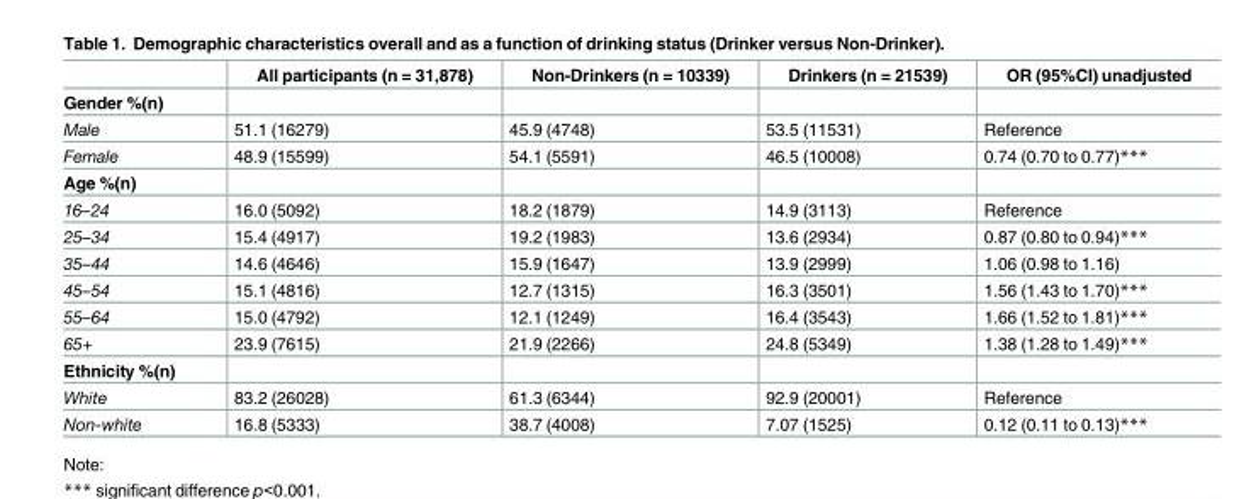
<table><thead><tr><td></td><td>All participants (n = 31,878)</td><td>Non-Drinkers (n = 10339)</td><td>Drinkers (n = 21539)</td><td>OR (95%CI) unadjusted</td></tr></thead><tbody><tr><td colspan="5">Gender %(n)</td></tr><tr><td>Male</td><td>51.1 (16279)</td><td>45.9 (4748)</td><td>53.5 (11531)</td><td>Reference</td></tr><tr><td>Female</td><td>48.9 (15599)</td><td>54.1 (5591)</td><td>46.5 (10008)</td><td>0.74 (0.70 to 0.77)***</td></tr><tr><td colspan="5">Age %(n)</td></tr><tr><td>16–24</td><td>16.0 (5092)</td><td>18.2 (1879)</td><td>14.9 (3113)</td><td>Reference</td></tr><tr><td>25–34</td><td>15.4 (4917)</td><td>19.2 (1983)</td><td>13.6 (2934)</td><td>0.87 (0.80 to 0.94)***</td></tr><tr><td>35–44</td><td>14.6 (4646)</td><td>15.9 (1647)</td><td>13.9 (2999)</td><td>1.06 (0.98 to 1.16)</td></tr><tr><td>45–54</td><td>15.1 (4816)</td><td>12.7 (1315)</td><td>16.3 (3501)</td><td>1.56 (1.43 to 1.70)***</td></tr><tr><td>55–64</td><td>15.0 (4792)</td><td>12.1 (1249)</td><td>16.4 (3543)</td><td>1.66 (1.52 to 1.81)***</td></tr><tr><td>65+</td><td>23.9 (7615)</td><td>21.9 (2266)</td><td>24.8 (5349)</td><td>1.38 (1.28 to 1.49)***</td></tr><tr><td colspan="5">Ethnicity %(n)</td></tr><tr><td>White</td><td>83.2 (26028)</td><td>61.3 (6344)</td><td>92.9 (20001)</td><td>Reference</td></tr><tr><td>Non-white</td><td>16.8 (5333)</td><td>38.7 (4008)</td><td>7.07 (1525)</td><td>0.12 (0.11 to 0.13)***</td></tr></tbody></table>